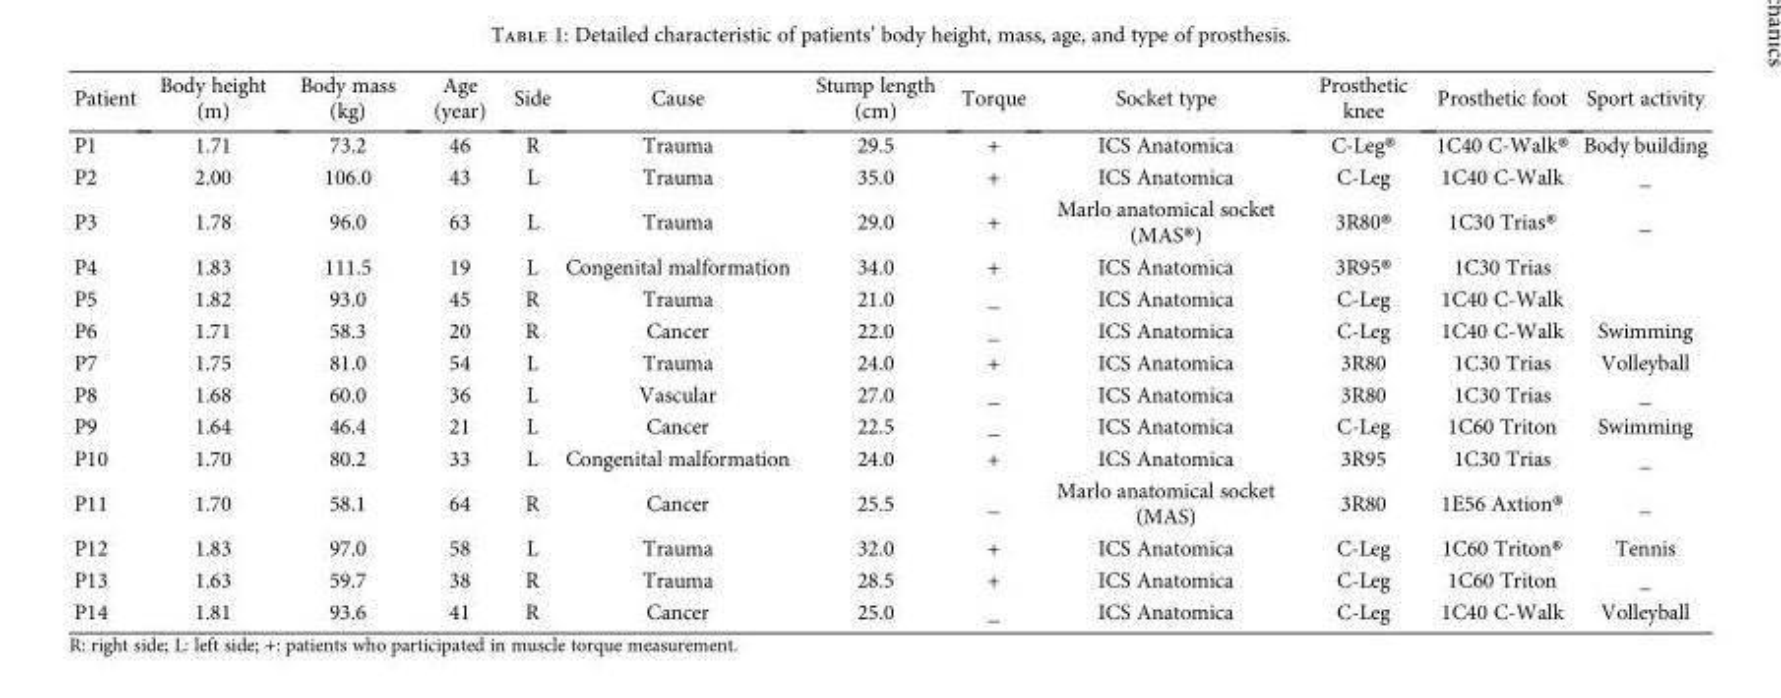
<table><thead><tr><td>Patient</td><td>Body height (m)</td><td>Body mass (kg)</td><td>Age (year)</td><td>Side</td><td>Cause</td><td>Stump length (cm)</td><td>Torque</td><td>Socket type</td><td>Prosthetic knee</td><td>Prosthetic foot</td><td>Sport activity</td></tr></thead><tbody><tr><td>P1</td><td>1.71</td><td>73.2</td><td>46</td><td>R</td><td>Trauma</td><td>29.5</td><td>+</td><td>ICS Anatomica</td><td>C-Leg®</td><td>1C40 C-Walk®</td><td>Body building</td></tr><tr><td>P2</td><td>2.00</td><td>106.0</td><td>43</td><td>L</td><td>Trauma</td><td>35.0</td><td>+</td><td>ICS Anatomica</td><td>C-Leg</td><td>1C40 C-Walk</td><td>_</td></tr><tr><td>P3</td><td>1.78</td><td>96.0</td><td>63</td><td>L</td><td>Trauma</td><td>29.0</td><td>+</td><td>Marlo anatomical socket (MAS®)</td><td>3R80®</td><td>1C30 Trias®</td><td>_</td></tr><tr><td>P4</td><td>1.83</td><td>111.5</td><td>19</td><td>L</td><td>Congenital malformation</td><td>34.0</td><td>+</td><td>ICS Anatomica</td><td>3R95®</td><td>1C30 Trias</td><td></td></tr><tr><td>P5</td><td>1.82</td><td>93.0</td><td>45</td><td>R</td><td>Trauma</td><td>21.0</td><td>_</td><td>ICS Anatomica</td><td>C-Leg</td><td>1C40 C-Walk</td><td></td></tr><tr><td>P6</td><td>1.71</td><td>58.3</td><td>20</td><td>R</td><td>Cancer</td><td>22.0</td><td>_</td><td>ICS Anatomica</td><td>C-Leg</td><td>1C40 C-Walk</td><td>Swimming</td></tr><tr><td>P7</td><td>1.75</td><td>81.0</td><td>54</td><td>L</td><td>Trauma</td><td>24.0</td><td>+</td><td>ICS Anatomica</td><td>3R80</td><td>1C30 Trias</td><td>Volleyball</td></tr><tr><td>P8</td><td>1.68</td><td>60.0</td><td>36</td><td>L</td><td>Vascular</td><td>27.0</td><td>_</td><td>ICS Anatomica</td><td>3R80</td><td>1C30 Trias</td><td>_</td></tr><tr><td>P9</td><td>1.64</td><td>46.4</td><td>21</td><td>L</td><td>Cancer</td><td>22.5</td><td>_</td><td>ICS Anatomica</td><td>C-Leg</td><td>1C60 Triton</td><td>Swimming</td></tr><tr><td>P10</td><td>1.70</td><td>80.2</td><td>33</td><td>L</td><td>Congenital malformation</td><td>24.0</td><td>+</td><td>ICS Anatomica</td><td>3R95</td><td>1C30 Trias</td><td>_</td></tr><tr><td>P11</td><td>1.70</td><td>58.1</td><td>64</td><td>R</td><td>Cancer</td><td>25.5</td><td>_</td><td>Marlo anatomical socket (MAS)</td><td>3R80</td><td>1E56 Axtion®</td><td>_</td></tr><tr><td>P12</td><td>1.83</td><td>97.0</td><td>58</td><td>L</td><td>Trauma</td><td>32.0</td><td>+</td><td>ICS Anatomica</td><td>C-Leg</td><td>1C60 Triton®</td><td>Tennis</td></tr><tr><td>P13</td><td>1.63</td><td>59.7</td><td>38</td><td>R</td><td>Trauma</td><td>28.5</td><td>+</td><td>ICS Anatomica</td><td>C-Leg</td><td>1C60 Triton</td><td>_</td></tr><tr><td>P14</td><td>1.81</td><td>93.6</td><td>41</td><td>R</td><td>Cancer</td><td>25.0</td><td>_</td><td>ICS Anatomica</td><td>C-Leg</td><td>1C40 C-Walk</td><td>Volleyball</td></tr></tbody></table>